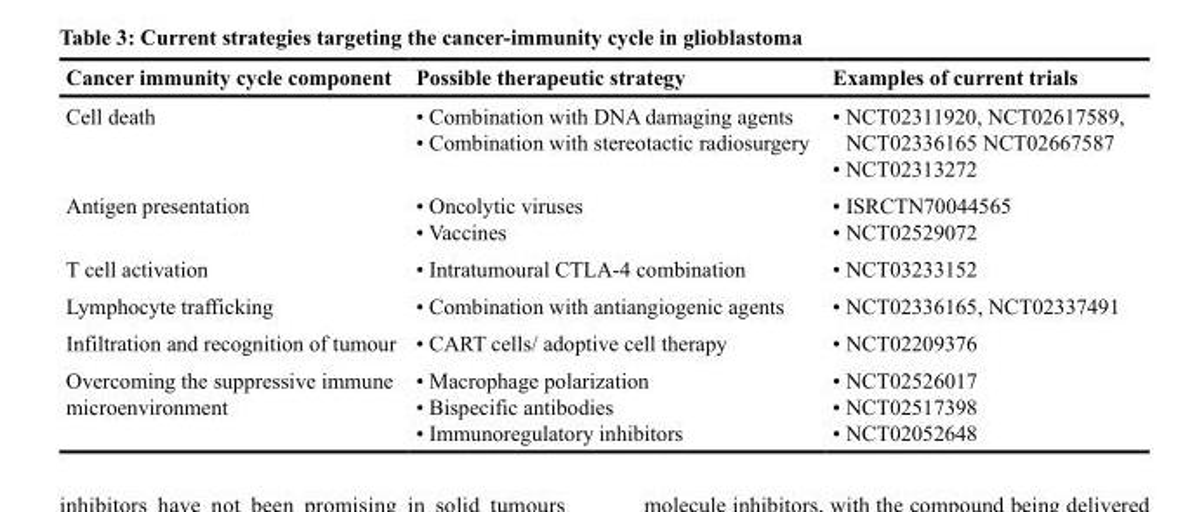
<table><thead><tr><td>Cancer immunity cycle component</td><td>Possible therapeutic strategy</td><td>Examples of current trials</td></tr></thead><tbody><tr><td>Cell death</td><td>• Combination with DNA damaging agents • Combination with stereotactic radiosurgery</td><td>• NCT02311920, NCT02617589, NCT02336165 NCT02667587 • NCT02313272</td></tr><tr><td>Antigen presentation</td><td>• Oncolytic viruses • Vaccines</td><td>• ISRCTN70044565 • NCT02529072</td></tr><tr><td>T cell activation</td><td>• Intratumoural CTLA-4 combination</td><td>• NCT03233152</td></tr><tr><td>Lymphocyte trafficking</td><td>• Combination with antiangiogenic agents</td><td>• NCT02336165, NCT02337491</td></tr><tr><td>Infiltration and recognition of tumour</td><td>• CART cells/ adoptive cell therapy</td><td>• NCT02209376</td></tr><tr><td>Overcoming the suppressive immune microenvironment</td><td>• Macrophage polarization • Bispecific antibodies • Immunoregulatory inhibitors</td><td>• NCT02526017 • NCT02517398 • NCT02052648</td></tr></tbody></table>